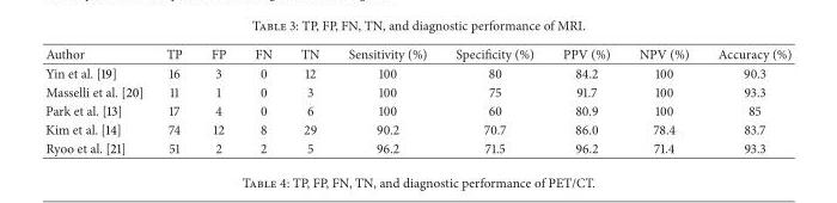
<table><thead><tr><td>Author</td><td>TP</td><td>FP</td><td>FN</td><td>TN</td><td>Sensitivity (%)</td><td>Specificity (%)</td><td>PPV (%)</td><td>NPV (%)</td><td>Accuracy (%)</td></tr></thead><tbody><tr><td>Yin et al. [19]</td><td>16</td><td>3</td><td>0</td><td>12</td><td>100</td><td>80</td><td>84.2</td><td>100</td><td>90.3</td></tr><tr><td>Masselli et al. [20]</td><td>11</td><td>1</td><td>0</td><td>3</td><td>100</td><td>75</td><td>91.7</td><td>100</td><td>93.3</td></tr><tr><td>Park et al. [13]</td><td>17</td><td>4</td><td>0</td><td>6</td><td>100</td><td>60</td><td>80.9</td><td>100</td><td>85</td></tr><tr><td>Kim et al. [14]</td><td>74</td><td>12</td><td>8</td><td>29</td><td>90.2</td><td>70.7</td><td>86.0</td><td>78.4</td><td>83.7</td></tr><tr><td>Ryoo et al. [21]</td><td>51</td><td>2</td><td>2</td><td>5</td><td>96.2</td><td>71.5</td><td>96.2</td><td>71.4</td><td>93.3</td></tr></tbody></table>